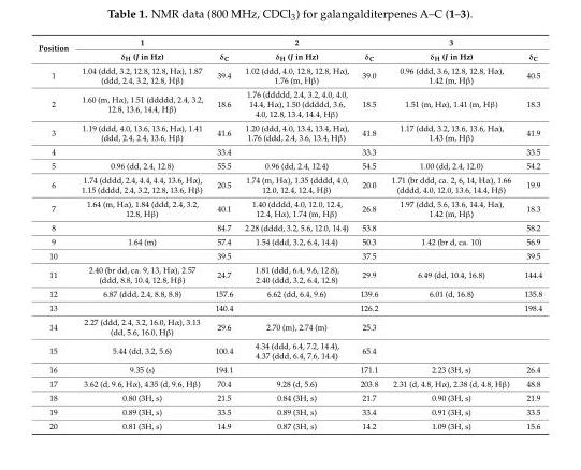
<table><thead><tr><td rowspan="2">Position</td><td rowspan="2">1 δH (J in Hz)</td><td rowspan="2">δC</td><td rowspan="2">2 δH (J in Hz)</td><td rowspan="2">δC</td><td rowspan="2">3 δH (J in Hz)</td><td rowspan="2">δC</td></tr><tr></tr></thead><tbody><tr><td>1</td><td>1.04 (ddd, 3.2, 12.8, 12.8, Hα), 1.87 (ddd, 2.4, 3.2, 12.8, Hβ)</td><td>39.4</td><td>1.02 (ddd, 4.0, 12.8, 12.8, Hα), 1.76 (m, Hβ)</td><td>39.0</td><td>0.96 (ddd, 3.6, 12.8, 12.8, Hα), 1.42 (m, Hβ)</td><td>40.5</td></tr><tr><td>2</td><td>1.60 (m, Hα), 1.51 (ddddd, 2.4, 3.2, 12.8, 13.6, 14.4, Hβ)</td><td>18.6</td><td>1.76 (ddddd, 2.4, 3.2, 4.0, 4.0, 14.4, Hα), 1.50 (ddddd, 3.6, 4.0, 12.8, 13.4, 14.4, Hβ)</td><td>18.5</td><td>1.51 (m, Hα), 1.41 (m, Hβ)</td><td>18.3</td></tr><tr><td>3</td><td>1.19 (ddd, 4.0, 13.6, 13.6, Hα), 1.41 (ddd, 2.4, 2.4, 13.6, Hβ)</td><td>41.6</td><td>1.20 (ddd, 4.0, 13.4, 13.4, Hα), 1.76 (ddd, 2.4, 3.6, 13.4, Hβ)</td><td>41.8</td><td>1.17 (ddd, 3.2, 13.6, 13.6, Hα), 1.43 (m, Hβ)</td><td>41.9</td></tr><tr><td>4</td><td></td><td>33.4</td><td></td><td>33.3</td><td></td><td>33.5</td></tr><tr><td>5</td><td>0.96 (dd, 2.4, 12.8)</td><td>55.5</td><td>0.96 (dd, 2.4, 12.4)</td><td>54.5</td><td>1.00 (dd, 2.4, 12.0)</td><td>54.2</td></tr><tr><td>6</td><td>1.74 (dddd, 2.4, 4.4, 4.4, 13.6, Hα), 1.15 (dddd, 2.4, 3.2, 12.8, 13.6, Hβ)</td><td>20.5</td><td>1.74 (m, Hα), 1.35 (dddd, 4.0, 12.0, 12.4, 12.4, Hβ)</td><td>20.0</td><td>1.71 (br ddd, ca. 2, 6, 14, Hα), 1.66 (dddd, 4.0, 12.0, 13.6, 14.4, Hβ)</td><td>19.9</td></tr><tr><td>7</td><td>1.64 (m, Hα), 1.84 (ddd, 2.4, 3.2, 12.8, Hβ)</td><td>40.1</td><td>1.40 (dddd, 4.0, 12.0, 12.4, 12.4, Hα), 1.74 (m, Hβ)</td><td>26.8</td><td>1.97 (ddd, 5.6, 13.6, 14.4, Hα), 1.42 (m, Hβ)</td><td>18.3</td></tr><tr><td>8</td><td></td><td>84.7</td><td>2.28 (dddd, 3.2, 5.6, 12.0, 14.4)</td><td>53.8</td><td></td><td>58.2</td></tr><tr><td>9</td><td>1.64 (m)</td><td>57.4</td><td>1.54 (ddd, 3.2, 6.4, 14.4)</td><td>50.3</td><td>1.42 (br d, ca. 10)</td><td>56.9</td></tr><tr><td>10</td><td></td><td>39.5</td><td></td><td>37.5</td><td></td><td>39.5</td></tr><tr><td>11</td><td>2.40 (br dd, ca. 9, 13, Hα), 2.57 (ddd, 8.8, 10.4, 12.8, Hβ)</td><td>24.7</td><td>1.81 (ddd, 6.4, 9.6, 12.8), 2.40 (ddd, 3.2, 6.4, 12.8)</td><td>29.9</td><td>6.49 (dd, 10.4, 16.8)</td><td>144.4</td></tr><tr><td>12</td><td>6.87 (ddd, 2.4, 8.8, 8.8)</td><td>157.6</td><td>6.62 (dd, 6.4, 9.6)</td><td>139.6</td><td>6.01 (d, 16.8)</td><td>135.8</td></tr><tr><td>13</td><td></td><td>140.4</td><td></td><td>126.2</td><td></td><td>198.4</td></tr><tr><td>14</td><td>2.27 (ddd, 2.4, 3.2, 16.0, Hα), 3.13 (dd, 5.6, 16.0, Hβ)</td><td>29.6</td><td>2.70 (m), 2.74 (m)</td><td>25.3</td><td></td><td></td></tr><tr><td>15</td><td>5.44 (dd, 3.2, 5.6)</td><td>100.4</td><td>4.34 (ddd, 6.4, 7.2, 14.4), 4.37 (ddd, 6.4, 7.6, 14.4)</td><td>65.4</td><td></td><td></td></tr><tr><td>16</td><td>9.35 (s)</td><td>194.1</td><td></td><td>171.1</td><td>2.23 (3H, s)</td><td>26.4</td></tr><tr><td>17</td><td>3.62 (d, 9.6, Hα), 4.35 (d, 9.6, Hβ)</td><td>70.4</td><td>9.28 (d, 5.6)</td><td>203.8</td><td>2.31 (d, 4.8, Hα), 2.38 (d, 4.8, Hβ)</td><td>48.8</td></tr><tr><td>18</td><td>0.80 (3H, s)</td><td>21.5</td><td>0.84 (3H, s)</td><td>21.7</td><td>0.90 (3H, s)</td><td>21.9</td></tr><tr><td>19</td><td>0.89 (3H, s)</td><td>33.5</td><td>0.89 (3H, s)</td><td>33.4</td><td>0.91 (3H, s)</td><td>33.5</td></tr><tr><td>20</td><td>0.81 (3H, s)</td><td>14.9</td><td>0.87 (3H, s)</td><td>14.2</td><td>1.09 (3H, s)</td><td>15.6</td></tr></tbody></table>